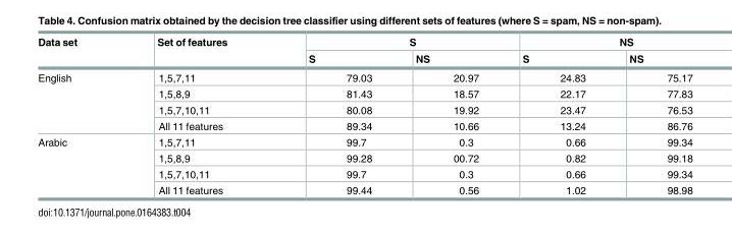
<table><thead><tr><td rowspan="2">Data set</td><td rowspan="2">Set of features</td><td colspan="2">S</td><td colspan="2">NS</td></tr><tr><td>S</td><td>NS</td><td>S</td><td>NS</td></tr></thead><tbody><tr><td rowspan="4">English</td><td>1,5,7,11</td><td>79.03</td><td>20.97</td><td>24.83</td><td>75.17</td></tr><tr><td>1,5,8,9</td><td>81.43</td><td>18.57</td><td>22.17</td><td>77.83</td></tr><tr><td>1,5,7,10,11</td><td>80.08</td><td>19.92</td><td>23.47</td><td>76.53</td></tr><tr><td>All 11 features</td><td>89.34</td><td>10.66</td><td>13.24</td><td>86.76</td></tr><tr><td rowspan="4">Arabic</td><td>1,5,7,11</td><td>99.7</td><td>0.3</td><td>0.66</td><td>99.34</td></tr><tr><td>1,5,8,9</td><td>99.28</td><td>00.72</td><td>0.82</td><td>99.18</td></tr><tr><td>1,5,7,10,11</td><td>99.7</td><td>0.3</td><td>0.66</td><td>99.34</td></tr><tr><td>All 11 features</td><td>99.44</td><td>0.56</td><td>1.02</td><td>98.98</td></tr></tbody></table>